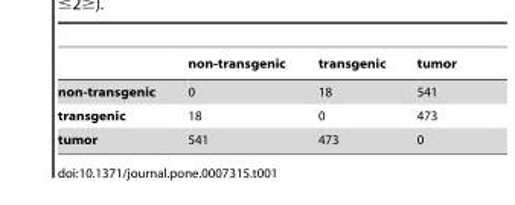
<table><thead><tr><td></td><td>non-transgenic</td><td>transgenic</td><td>tumor</td></tr></thead><tbody><tr><td>non-transgenic</td><td>0</td><td>18</td><td>541</td></tr><tr><td>transgenic</td><td>18</td><td>0</td><td>473</td></tr><tr><td>tumor</td><td>541</td><td>473</td><td>0</td></tr></tbody></table>